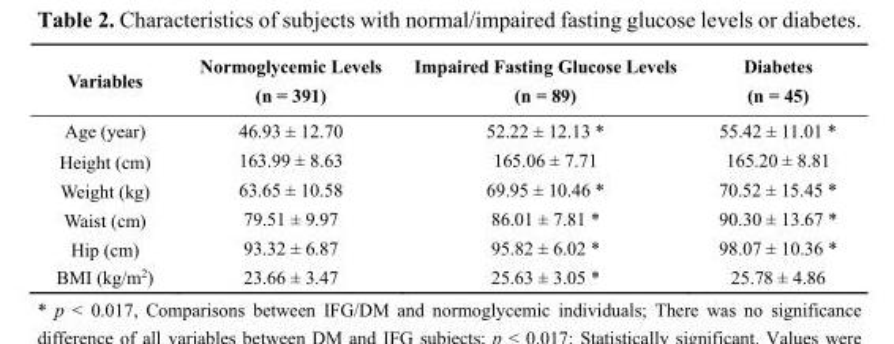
<table><thead><tr><td>Variables</td><td>Normoglycemic Levels (n = 391)</td><td>Impaired Fasting Glucose Levels (n = 89)</td><td>Diabetes (n = 45)</td></tr></thead><tbody><tr><td>Age (year)</td><td>46.93 ± 12.70</td><td>52.22 ± 12.13 *</td><td>55.42 ± 11.01 *</td></tr><tr><td>Height (cm)</td><td>163.99 ± 8.63</td><td>165.06 ± 7.71</td><td>165.20 ± 8.81</td></tr><tr><td>Weight (kg)</td><td>63.65 ± 10.58</td><td>69.95 ± 10.46 *</td><td>70.52 ± 15.45 *</td></tr><tr><td>Waist (cm)</td><td>79.51 ± 9.97</td><td>86.01 ± 7.81 *</td><td>90.30 ± 13.67 *</td></tr><tr><td>Hip (cm)</td><td>93.32 ± 6.87</td><td>95.82 ± 6.02 *</td><td>98.07 ± 10.36 *</td></tr><tr><td>BMI (kg/m<sup>2</sup>)</td><td>23.66 ± 3.47</td><td>25.63 ± 3.05 *</td><td>25.78 ± 4.86</td></tr></tbody></table>